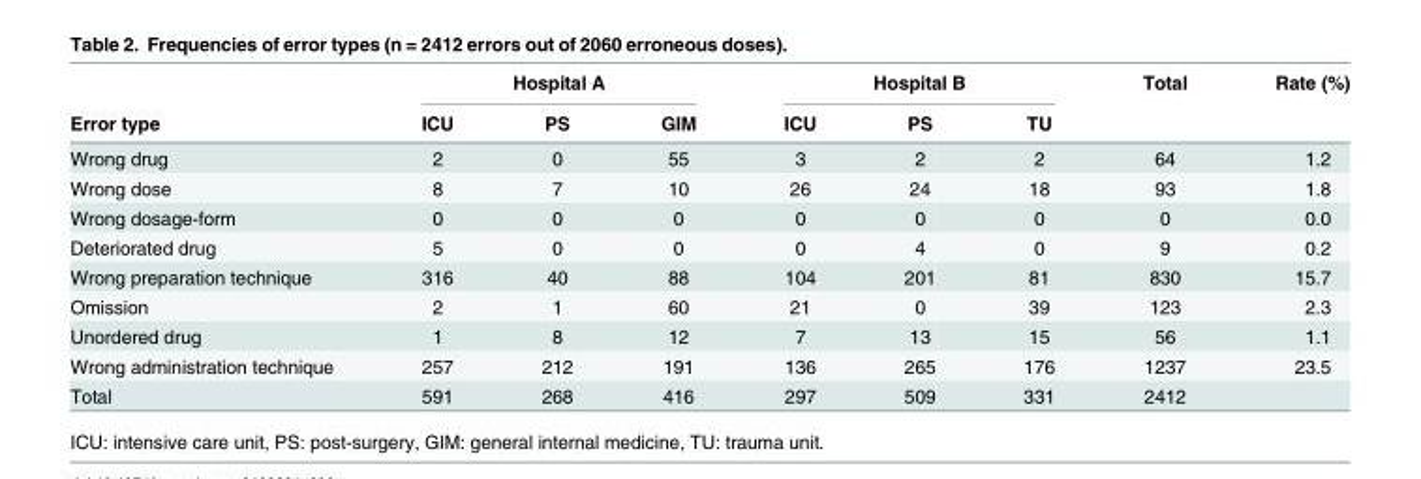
<table><thead><tr><td rowspan="2">Error type</td><td colspan="3">Hospital A</td><td colspan="3">Hospital B</td><td rowspan="2">Total</td><td rowspan="2">Rate (%)</td></tr><tr><td>ICU</td><td>PS</td><td>GIM</td><td>ICU</td><td>PS</td><td>TU</td></tr></thead><tbody><tr><td>Wrong drug</td><td>2</td><td>0</td><td>55</td><td>3</td><td>2</td><td>2</td><td>64</td><td>1.2</td></tr><tr><td>Wrong dose</td><td>8</td><td>7</td><td>10</td><td>26</td><td>24</td><td>18</td><td>93</td><td>1.8</td></tr><tr><td>Wrong dosage-form</td><td>0</td><td>0</td><td>0</td><td>0</td><td>0</td><td>0</td><td>0</td><td>0.0</td></tr><tr><td>Deteriorated drug</td><td>5</td><td>0</td><td>0</td><td>0</td><td>4</td><td>0</td><td>9</td><td>0.2</td></tr><tr><td>Wrong preparation technique</td><td>316</td><td>40</td><td>88</td><td>104</td><td>201</td><td>81</td><td>830</td><td>15.7</td></tr><tr><td>Omission</td><td>2</td><td>1</td><td>60</td><td>21</td><td>0</td><td>39</td><td>123</td><td>2.3</td></tr><tr><td>Unordered drug</td><td>1</td><td>8</td><td>12</td><td>7</td><td>13</td><td>15</td><td>56</td><td>1.1</td></tr><tr><td>Wrong administration technique</td><td>257</td><td>212</td><td>191</td><td>136</td><td>265</td><td>176</td><td>1237</td><td>23.5</td></tr><tr><td>Total</td><td>591</td><td>268</td><td>416</td><td>297</td><td>509</td><td>331</td><td>2412</td><td></td></tr></tbody></table>